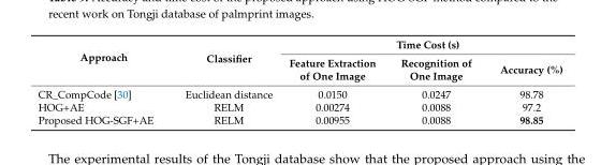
<table><thead><tr><td rowspan="2">Approach</td><td rowspan="2">Classifier</td><td colspan="3">Time Cost (s)</td></tr><tr><td>Feature Extraction of One Image</td><td>Recognition of One Image</td><td>Accuracy (%)</td></tr></thead><tbody><tr><td>CR_CompCode [30]</td><td>Euclidean distance</td><td>0.0150</td><td>0.0247</td><td>98.78</td></tr><tr><td>HOG+AE</td><td>RELM</td><td>0.00274</td><td>0.0088</td><td>97.2</td></tr><tr><td>Proposed HOG-SGF+AE</td><td>RELM</td><td>0.00955</td><td>0.0088</td><td>98.85</td></tr></tbody></table>